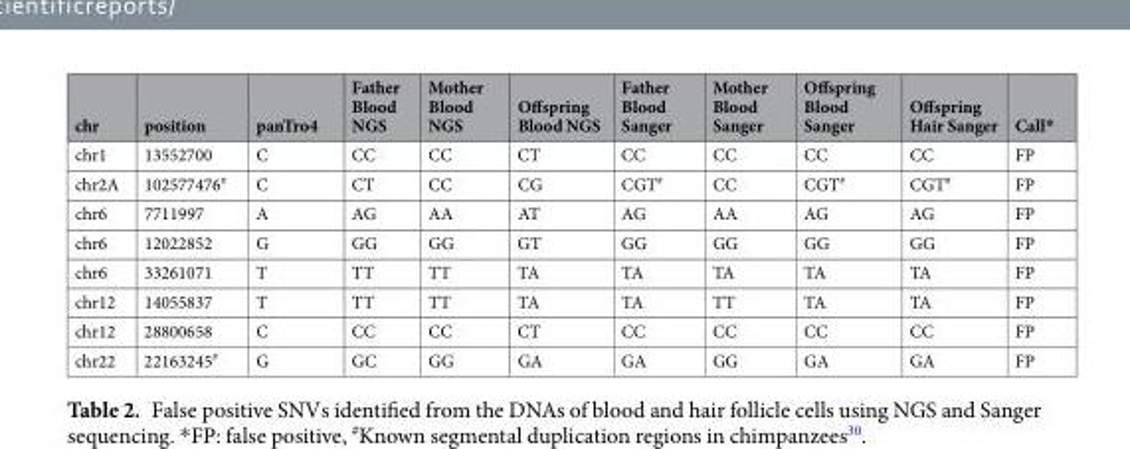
<table><thead><tr><td>chr</td><td>position</td><td>panTro4</td><td>Father Blood NGS</td><td>Mother Blood NGS</td><td>Offspring Blood NGS</td><td>Father Blood Sanger</td><td>Mother Blood Sanger</td><td>Offspring Blood Sanger</td><td>Offspring Hair Sanger</td><td>Call*</td></tr></thead><tbody><tr><td>chr1</td><td>13552700</td><td>C</td><td>CC</td><td>CC</td><td>CT</td><td>CC</td><td>CC</td><td>CC</td><td>CC</td><td>FP</td></tr><tr><td>chr2A</td><td>102577476<sup>#</sup></td><td>C</td><td>CT</td><td>CC</td><td>CG</td><td>CGT<sup>#</sup></td><td>CC</td><td>CGT<sup>#</sup></td><td>CGT<sup>#</sup></td><td>FP</td></tr><tr><td>chr6</td><td>7711997</td><td>A</td><td>AG</td><td>AA</td><td>AT</td><td>AG</td><td>AA</td><td>AG</td><td>AG</td><td>FP</td></tr><tr><td>chr6</td><td>12022852</td><td>G</td><td>GG</td><td>GG</td><td>GT</td><td>GG</td><td>GG</td><td>GG</td><td>GG</td><td>FP</td></tr><tr><td>chr6</td><td>33261071</td><td>T</td><td>TT</td><td>TT</td><td>TA</td><td>TA</td><td>TA</td><td>TA</td><td>TA</td><td>FP</td></tr><tr><td>chr12</td><td>14055837</td><td>T</td><td>TT</td><td>TT</td><td>TA</td><td>TA</td><td>TT</td><td>TA</td><td>TA</td><td>FP</td></tr><tr><td>chr12</td><td>28800658</td><td>C</td><td>CC</td><td>CC</td><td>CT</td><td>CC</td><td>CC</td><td>CC</td><td>CC</td><td>FP</td></tr><tr><td>chr22</td><td>22163245<sup>#</sup></td><td>G</td><td>GC</td><td>GG</td><td>GA</td><td>GA</td><td>GG</td><td>GA</td><td>GA</td><td>FP</td></tr></tbody></table>